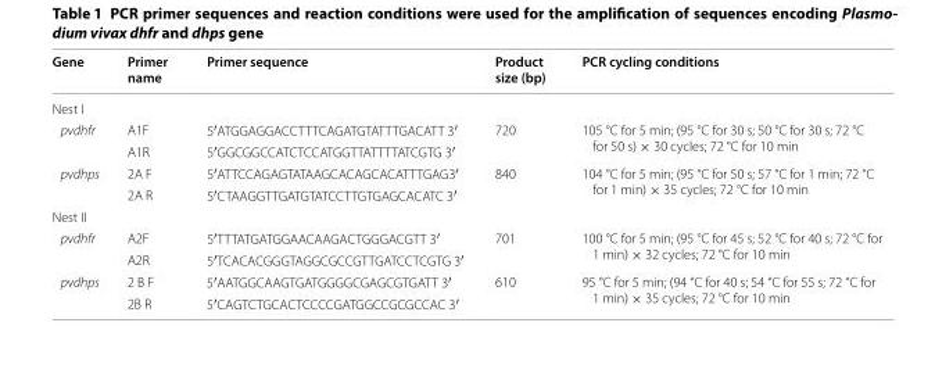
<table><thead><tr><td>Gene</td><td>Primer name</td><td>Primer sequence</td><td>Product size (bp)</td><td>PCR cycling conditions</td></tr></thead><tbody><tr><td colspan="5">Nest I</td></tr><tr><td rowspan="2">pvdhfr</td><td>A1F</td><td>5′ATGGAGGACCTTTCAGATGTATTTGACATT 3′</td><td rowspan="2">720</td><td rowspan="2">105 °C for 5 min; (95 °C for 30 s; 50 °C for 30 s; 72 °C for 50 s) × 30 cycles; 72 °C for 10 min</td></tr><tr><td>A1R</td><td>5′GGCGGCCATCTCCATGGTTATTTTATCGTG 3′</td></tr><tr><td rowspan="2">pvdhps</td><td>2A F</td><td>5′ATTCCAGAGTATAAGCACAGCACATTTGAG3′</td><td rowspan="2">840</td><td rowspan="2">104 °C for 5 min; (95 °C for 50 s; 57 °C for 1 min; 72 °C for 1 min) × 35 cycles; 72 °C for 10 min</td></tr><tr><td>2A R</td><td>5′CTAAGGTTGATGTATCCTTGTGAGCACATC 3′</td></tr><tr><td colspan="5">Nest II</td></tr><tr><td rowspan="2">pvdhfr</td><td>A2F</td><td>5′TTTATGATGGAACAAGACTGGGACGTT 3′</td><td rowspan="2">701</td><td rowspan="2">100 °C for 5 min; (95 °C for 45 s; 52 °C for 40 s; 72 °C for 1 min) × 32 cycles; 72 °C for 10 min</td></tr><tr><td>A2R</td><td>5′TCACACGGGTAGGCGCCGTTGATCCTCGTG 3′</td></tr><tr><td rowspan="2">pvdhps</td><td>2 B F</td><td>5′AATGGCAAGTGATGGGGCGAGCGTGATT 3′</td><td rowspan="2">610</td><td rowspan="2">95 °C for 5 min; (94 °C for 40 s; 54 °C for 55 s; 72 °C for 1 min) × 35 cycles; 72 °C for 10 min</td></tr><tr><td>2B R</td><td>5′CAGTCTGCACTCCCCGATGGCCGCGCCAC 3′</td></tr></tbody></table>